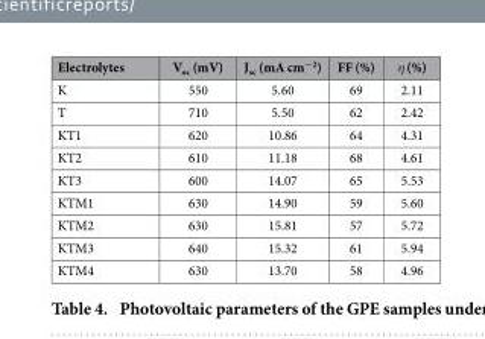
<table><thead><tr><td>Electrolytes</td><td>V<sub>oc</sub> (mV)</td><td>J<sub>sc</sub> (mA cm<sup>−2</sup>)</td><td>FF (%)</td><td>η (%)</td></tr></thead><tbody><tr><td>K</td><td>550</td><td>5.60</td><td>69</td><td>2.11</td></tr><tr><td>T</td><td>710</td><td>5.50</td><td>62</td><td>2.42</td></tr><tr><td>KT1</td><td>620</td><td>10.86</td><td>64</td><td>4.31</td></tr><tr><td>KT2</td><td>610</td><td>11.18</td><td>68</td><td>4.61</td></tr><tr><td>KT3</td><td>600</td><td>14.07</td><td>65</td><td>5.53</td></tr><tr><td>KTM1</td><td>630</td><td>14.90</td><td>59</td><td>5.60</td></tr><tr><td>KTM2</td><td>630</td><td>15.81</td><td>57</td><td>5.72</td></tr><tr><td>KTM3</td><td>640</td><td>15.32</td><td>61</td><td>5.94</td></tr><tr><td>KTM4</td><td>630</td><td>13.70</td><td>58</td><td>4.96</td></tr></tbody></table>